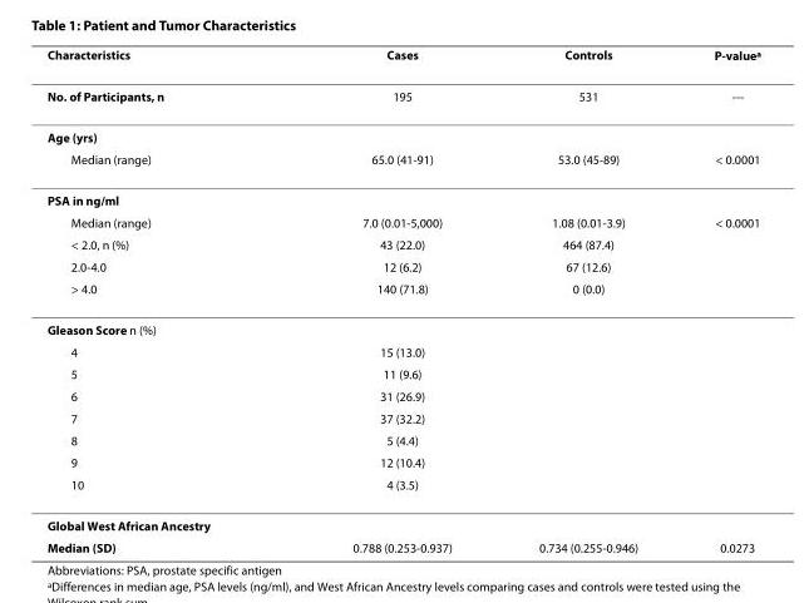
<table><thead><tr><td>Characteristics</td><td>Cases</td><td>Controls</td><td>P-value<sup>a</sup></td></tr></thead><tbody><tr><td>No. of Participants, n</td><td>195</td><td>531</td><td>---</td></tr><tr><td colspan="4">Age (yrs)</td></tr><tr><td>Median (range)</td><td>65.0 (41-91)</td><td>53.0 (45-89)</td><td>&lt; 0.0001</td></tr><tr><td colspan="4">PSA in ng/ml</td></tr><tr><td>Median (range)</td><td>7.0 (0.01-5,000)</td><td>1.08 (0.01-3.9)</td><td>&lt; 0.0001</td></tr><tr><td>&lt; 2.0, n (%)</td><td>43 (22.0)</td><td>464 (87.4)</td><td></td></tr><tr><td>2.0-4.0</td><td>12 (6.2)</td><td>67 (12.6)</td><td></td></tr><tr><td>&gt; 4.0</td><td>140 (71.8)</td><td>0 (0.0)</td><td></td></tr><tr><td colspan="4">Gleason Score n (%)</td></tr><tr><td>4</td><td>15 (13.0)</td><td></td><td></td></tr><tr><td>5</td><td>11 (9.6)</td><td></td><td></td></tr><tr><td>6</td><td>31 (26.9)</td><td></td><td></td></tr><tr><td>7</td><td>37 (32.2)</td><td></td><td></td></tr><tr><td>8</td><td>5 (4.4)</td><td></td><td></td></tr><tr><td>9</td><td>12 (10.4)</td><td></td><td></td></tr><tr><td>10</td><td>4 (3.5)</td><td></td><td></td></tr><tr><td colspan="4">Global West African Ancestry</td></tr><tr><td>Median (SD)</td><td>0.788 (0.253-0.937)</td><td>0.734 (0.255-0.946)</td><td>0.0273</td></tr></tbody></table>